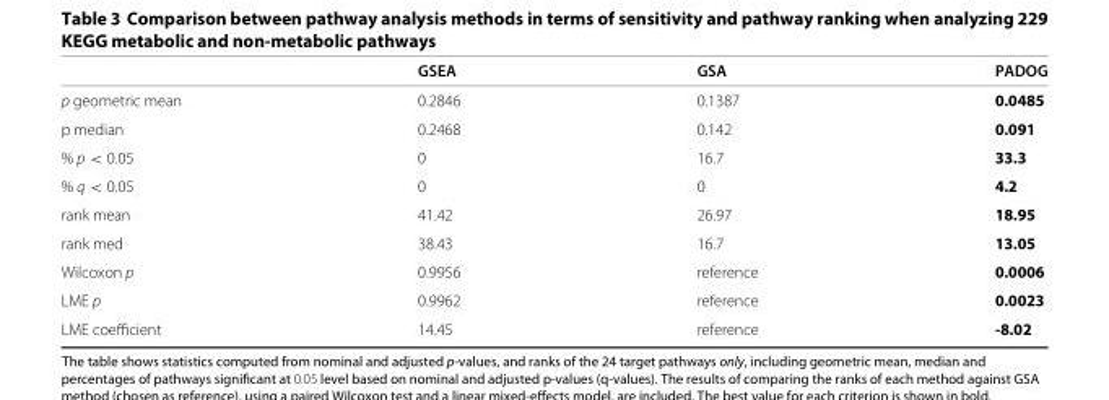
<table><thead><tr><td></td><td>GSEA</td><td>GSA</td><td>PADOG</td></tr></thead><tbody><tr><td>p geometric mean</td><td>0.2846</td><td>0.1387</td><td>0.0485</td></tr><tr><td>p median</td><td>0.2468</td><td>0.142</td><td>0.091</td></tr><tr><td>% p &lt; 0.05</td><td>0</td><td>16.7</td><td>33.3</td></tr><tr><td>% q &lt; 0.05</td><td>0</td><td>0</td><td>4.2</td></tr><tr><td>rank mean</td><td>41.42</td><td>26.97</td><td>18.95</td></tr><tr><td>rank med</td><td>38.43</td><td>16.7</td><td>13.05</td></tr><tr><td>Wilcoxon p</td><td>0.9956</td><td>reference</td><td>0.0006</td></tr><tr><td>LME p</td><td>0.9962</td><td>reference</td><td>0.0023</td></tr><tr><td>LME coefficient</td><td>14.45</td><td>reference</td><td>-8.02</td></tr></tbody></table>